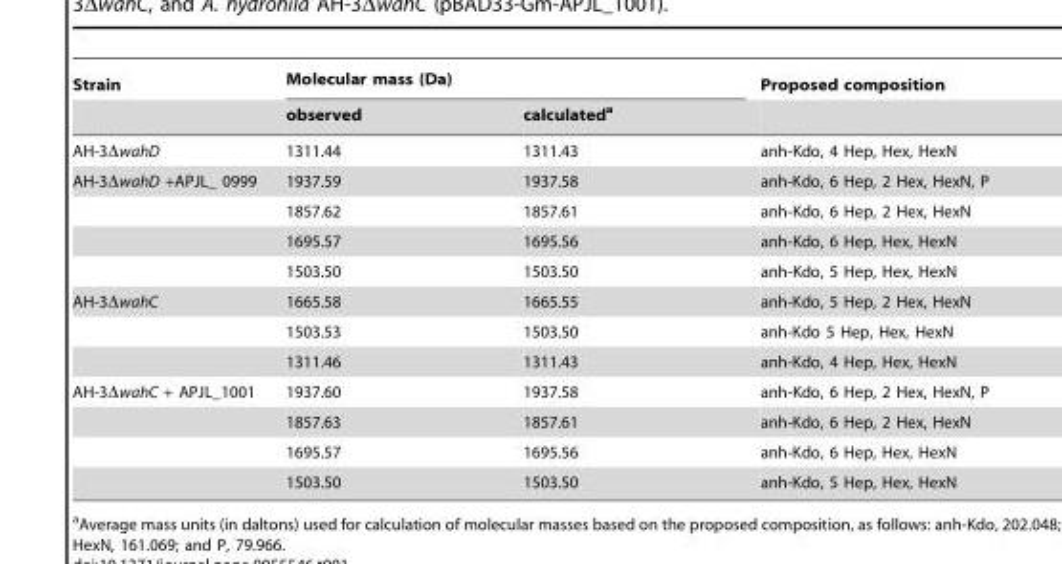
<table><thead><tr><td rowspan="2">Strain</td><td colspan="2">Molecular mass (Da)</td><td rowspan="2">Proposed composition</td></tr><tr><td>observed</td><td>calculated<sup>a</sup></td></tr></thead><tbody><tr><td>AH-3ΔwahD</td><td>1311.44</td><td>1311.43</td><td>anh-Kdo, 4 Hep, Hex, HexN</td></tr><tr><td rowspan="4">AH-3ΔwahD +APJL_ 0999</td><td>1937.59</td><td>1937.58</td><td>anh-Kdo, 6 Hep, 2 Hex, HexN, P</td></tr><tr><td>1857.62</td><td>1857.61</td><td>anh-Kdo, 6 Hep, 2 Hex, HexN</td></tr><tr><td>1695.57</td><td>1695.56</td><td>anh-Kdo, 6 Hep, Hex, HexN</td></tr><tr><td>1503.50</td><td>1503.50</td><td>anh-Kdo, 5 Hep, Hex, HexN</td></tr><tr><td rowspan="3">AH-3ΔwahC</td><td>1665.58</td><td>1665.55</td><td>anh-Kdo, 5 Hep, 2 Hex, HexN</td></tr><tr><td>1503.53</td><td>1503.50</td><td>anh-Kdo 5 Hep, Hex, HexN</td></tr><tr><td>1311.46</td><td>1311.43</td><td>anh-Kdo, 4 Hep, Hex, HexN</td></tr><tr><td rowspan="4">AH-3ΔwahC + APJL_1001</td><td>1937.60</td><td>1937.58</td><td>anh-Kdo, 6 Hep, 2 Hex, HexN, P</td></tr><tr><td>1857.63</td><td>1857.61</td><td>anh-Kdo, 6 Hep, 2 Hex, HexN</td></tr><tr><td>1695.57</td><td>1695.56</td><td>anh-Kdo, 6 Hep, Hex, HexN</td></tr><tr><td>1503.50</td><td>1503.50</td><td>anh-Kdo, 5 Hep, Hex, HexN</td></tr></tbody></table>